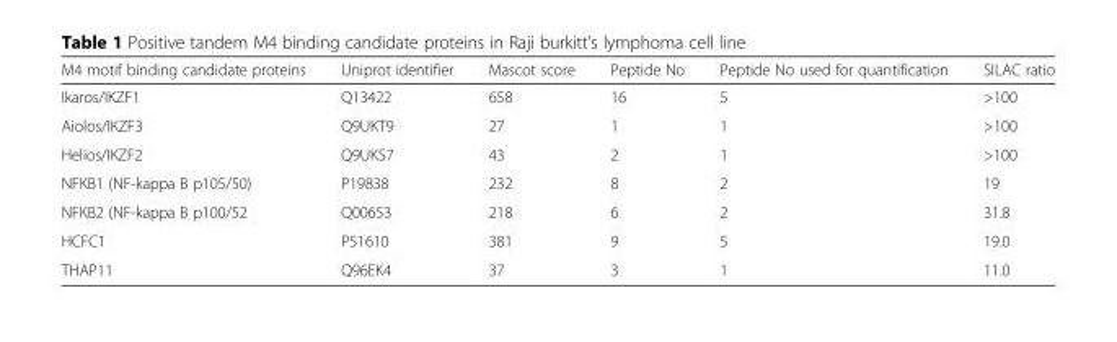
<table><thead><tr><td>M4 motif binding candidate proteins</td><td>Uniprot identifier</td><td>Mascot score</td><td>Peptide No</td><td>Peptide No used for quantification</td><td>SILAC ratio</td></tr></thead><tbody><tr><td>Ikaros/IKZF1</td><td>Q13422</td><td>658</td><td>16</td><td>5</td><td>&gt;100</td></tr><tr><td>Aiolos/IKZF3</td><td>Q9UKT9</td><td>27</td><td>1</td><td>1</td><td>&gt;100</td></tr><tr><td>Helios/IKZF2</td><td>Q9UKS7</td><td>43</td><td>2</td><td>1</td><td>&gt;100</td></tr><tr><td>NFKB1 (NF-kappa B p105/50)</td><td>P19838</td><td>232</td><td>8</td><td>2</td><td>19</td></tr><tr><td>NFKB2 (NF-kappa B p100/52</td><td>Q00653</td><td>218</td><td>6</td><td>2</td><td>31.8</td></tr><tr><td>HCFC1</td><td>P51610</td><td>381</td><td>9</td><td>5</td><td>19.0</td></tr><tr><td>THAP11</td><td>Q96EK4</td><td>37</td><td>3</td><td>1</td><td>11.0</td></tr></tbody></table>